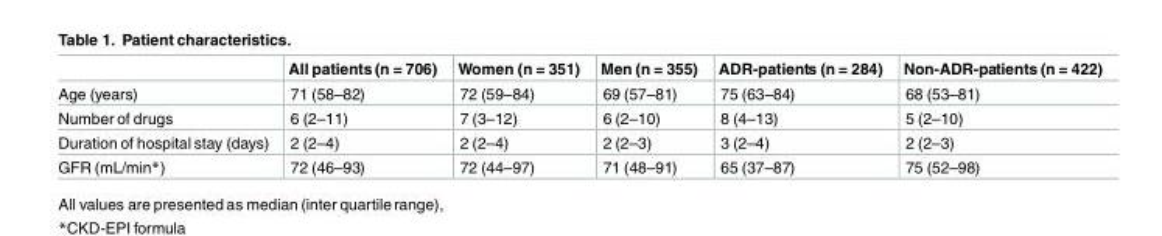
<table><thead><tr><td></td><td>All patients (n = 706)</td><td>Women (n = 351)</td><td>Men (n = 355)</td><td>ADR-patients (n = 284)</td><td>Non-ADR-patients (n = 422)</td></tr></thead><tbody><tr><td>Age (years)</td><td>71 (58–82)</td><td>72 (59–84)</td><td>69 (57–81)</td><td>75 (63–84)</td><td>68 (53–81)</td></tr><tr><td>Number of drugs</td><td>6 (2–11)</td><td>7 (3–12)</td><td>6 (2–10)</td><td>8 (4–13)</td><td>5 (2–10)</td></tr><tr><td>Duration of hospital stay (days)</td><td>2 (2–4)</td><td>2 (2–4)</td><td>2 (2–3)</td><td>3 (2–4)</td><td>2 (2–3)</td></tr><tr><td>GFR (mL/min*)</td><td>72 (46–93)</td><td>72 (44–97)</td><td>71 (48–91)</td><td>65 (37–87)</td><td>75 (52–98)</td></tr></tbody></table>